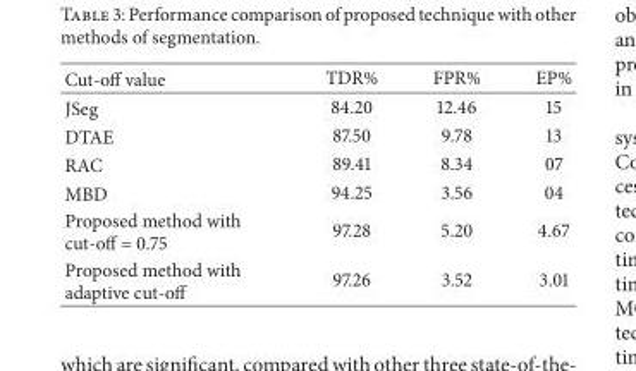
<table><thead><tr><td>Cut-off value</td><td>TDR%</td><td>FPR%</td><td>EP%</td></tr></thead><tbody><tr><td>JSeg</td><td>84.20</td><td>12.46</td><td>15</td></tr><tr><td>DTAE</td><td>87.50</td><td>9.78</td><td>13</td></tr><tr><td>RAC</td><td>89.41</td><td>8.34</td><td>07</td></tr><tr><td>MBD</td><td>94.25</td><td>3.56</td><td>04</td></tr><tr><td>Proposed method with cut-off = 0.75</td><td>97.28</td><td>5.20</td><td>4.67</td></tr><tr><td>Proposed method with adaptive cut-off</td><td>97.26</td><td>3.52</td><td>3.01</td></tr></tbody></table>